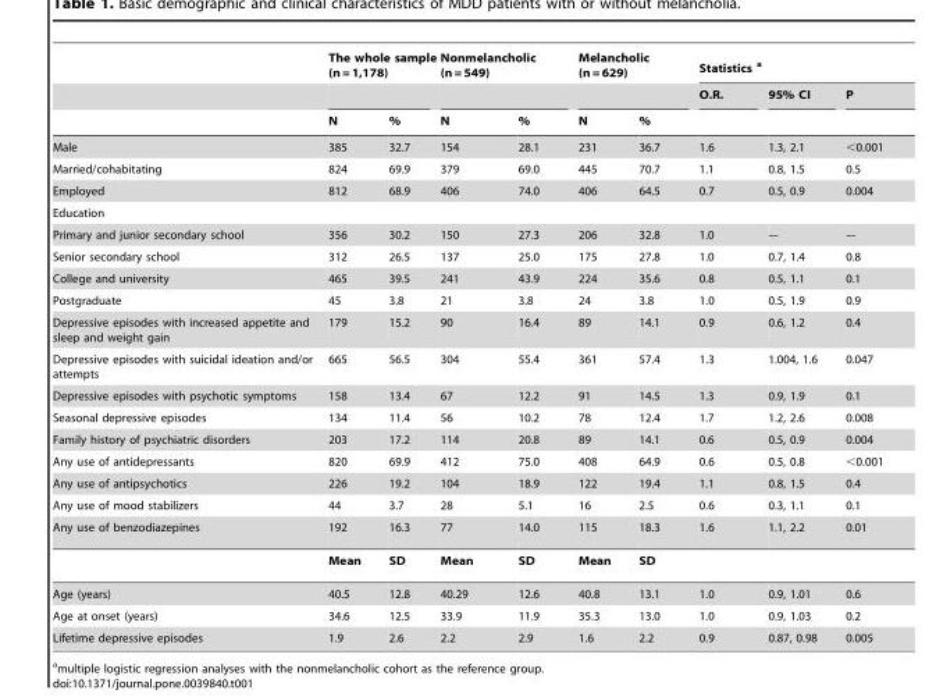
<table><thead><tr><td rowspan="3"></td><td colspan="2">The whole sample (n = 1,178)</td><td colspan="2">Nonmelancholic (n = 549)</td><td colspan="2">Melancholic (n = 629)</td><td colspan="3">Statistics a</td></tr><tr><td rowspan="2">N</td><td rowspan="2">%</td><td rowspan="2">N</td><td rowspan="2">%</td><td rowspan="2">N</td><td rowspan="2">%</td><td rowspan="2">O.R.</td><td rowspan="2">95% CI</td><td rowspan="2">P</td></tr><tr></tr></thead><tbody><tr><td>Male</td><td>385</td><td>32.7</td><td>154</td><td>28.1</td><td>231</td><td>36.7</td><td>1.6</td><td>1.3, 2.1</td><td>&lt;0.001</td></tr><tr><td>Married/cohabitating</td><td>824</td><td>69.9</td><td>379</td><td>69.0</td><td>445</td><td>70.7</td><td>1.1</td><td>0.8, 1.5</td><td>0.5</td></tr><tr><td>Employed</td><td>812</td><td>68.9</td><td>406</td><td>74.0</td><td>406</td><td>64.5</td><td>0.7</td><td>0.5, 0.9</td><td>0.004</td></tr><tr><td colspan="10">Education</td></tr><tr><td>Primary and junior secondary school</td><td>356</td><td>30.2</td><td>150</td><td>27.3</td><td>206</td><td>32.8</td><td>1.0</td><td>–-</td><td>–-</td></tr><tr><td>Senior secondary school</td><td>312</td><td>26.5</td><td>137</td><td>25.0</td><td>175</td><td>27.8</td><td>1.0</td><td>0.7, 1.4</td><td>0.8</td></tr><tr><td>College and university</td><td>465</td><td>39.5</td><td>241</td><td>43.9</td><td>224</td><td>35.6</td><td>0.8</td><td>0.5, 1.1</td><td>0.1</td></tr><tr><td>Postgraduate</td><td>45</td><td>3.8</td><td>21</td><td>3.8</td><td>24</td><td>3.8</td><td>1.0</td><td>0.5, 1.9</td><td>0.9</td></tr><tr><td>Depressive episodes with increased appetite and sleep and weight gain</td><td>179</td><td>15.2</td><td>90</td><td>16.4</td><td>89</td><td>14.1</td><td>0.9</td><td>0.6, 1.2</td><td>0.4</td></tr><tr><td>Depressive episodes with suicidal ideation and/or attempts</td><td>665</td><td>56.5</td><td>304</td><td>55.4</td><td>361</td><td>57.4</td><td>1.3</td><td>1.004, 1.6</td><td>0.047</td></tr><tr><td>Depressive episodes with psychotic symptoms</td><td>158</td><td>13.4</td><td>67</td><td>12.2</td><td>91</td><td>14.5</td><td>1.3</td><td>0.9, 1.9</td><td>0.1</td></tr><tr><td>Seasonal depressive episodes</td><td>134</td><td>11.4</td><td>56</td><td>10.2</td><td>78</td><td>12.4</td><td>1.7</td><td>1.2, 2.6</td><td>0.008</td></tr><tr><td>Family history of psychiatric disorders</td><td>203</td><td>17.2</td><td>114</td><td>20.8</td><td>89</td><td>14.1</td><td>0.6</td><td>0.5, 0.9</td><td>0.004</td></tr><tr><td>Any use of antidepressants</td><td>820</td><td>69.9</td><td>412</td><td>75.0</td><td>408</td><td>64.9</td><td>0.6</td><td>0.5, 0.8</td><td>&lt;0.001</td></tr><tr><td>Any use of antipsychotics</td><td>226</td><td>19.2</td><td>104</td><td>18.9</td><td>122</td><td>19.4</td><td>1.1</td><td>0.8, 1.5</td><td>0.4</td></tr><tr><td>Any use of mood stabilizers</td><td>44</td><td>3.7</td><td>28</td><td>5.1</td><td>16</td><td>2.5</td><td>0.6</td><td>0.3, 1.1</td><td>0.1</td></tr><tr><td rowspan="2">Any use of benzodiazepines</td><td>192</td><td>16.3</td><td>77</td><td>14.0</td><td>115</td><td>18.3</td><td>1.6</td><td>1.1, 2.2</td><td>0.01</td></tr><tr><td>Mean</td><td>SD</td><td>Mean</td><td>SD</td><td>Mean</td><td>SD</td><td></td><td></td><td></td></tr><tr><td>Age (years)</td><td>40.5</td><td>12.8</td><td>40.29</td><td>12.6</td><td>40.8</td><td>13.1</td><td>1.0</td><td>0.9, 1.01</td><td>0.6</td></tr><tr><td>Age at onset (years)</td><td>34.6</td><td>12.5</td><td>33.9</td><td>11.9</td><td>35.3</td><td>13.0</td><td>1.0</td><td>0.9, 1.03</td><td>0.2</td></tr><tr><td>Lifetime depressive episodes</td><td>1.9</td><td>2.6</td><td>2.2</td><td>2.9</td><td>1.6</td><td>2.2</td><td>0.9</td><td>0.87, 0.98</td><td>0.005</td></tr></tbody></table>